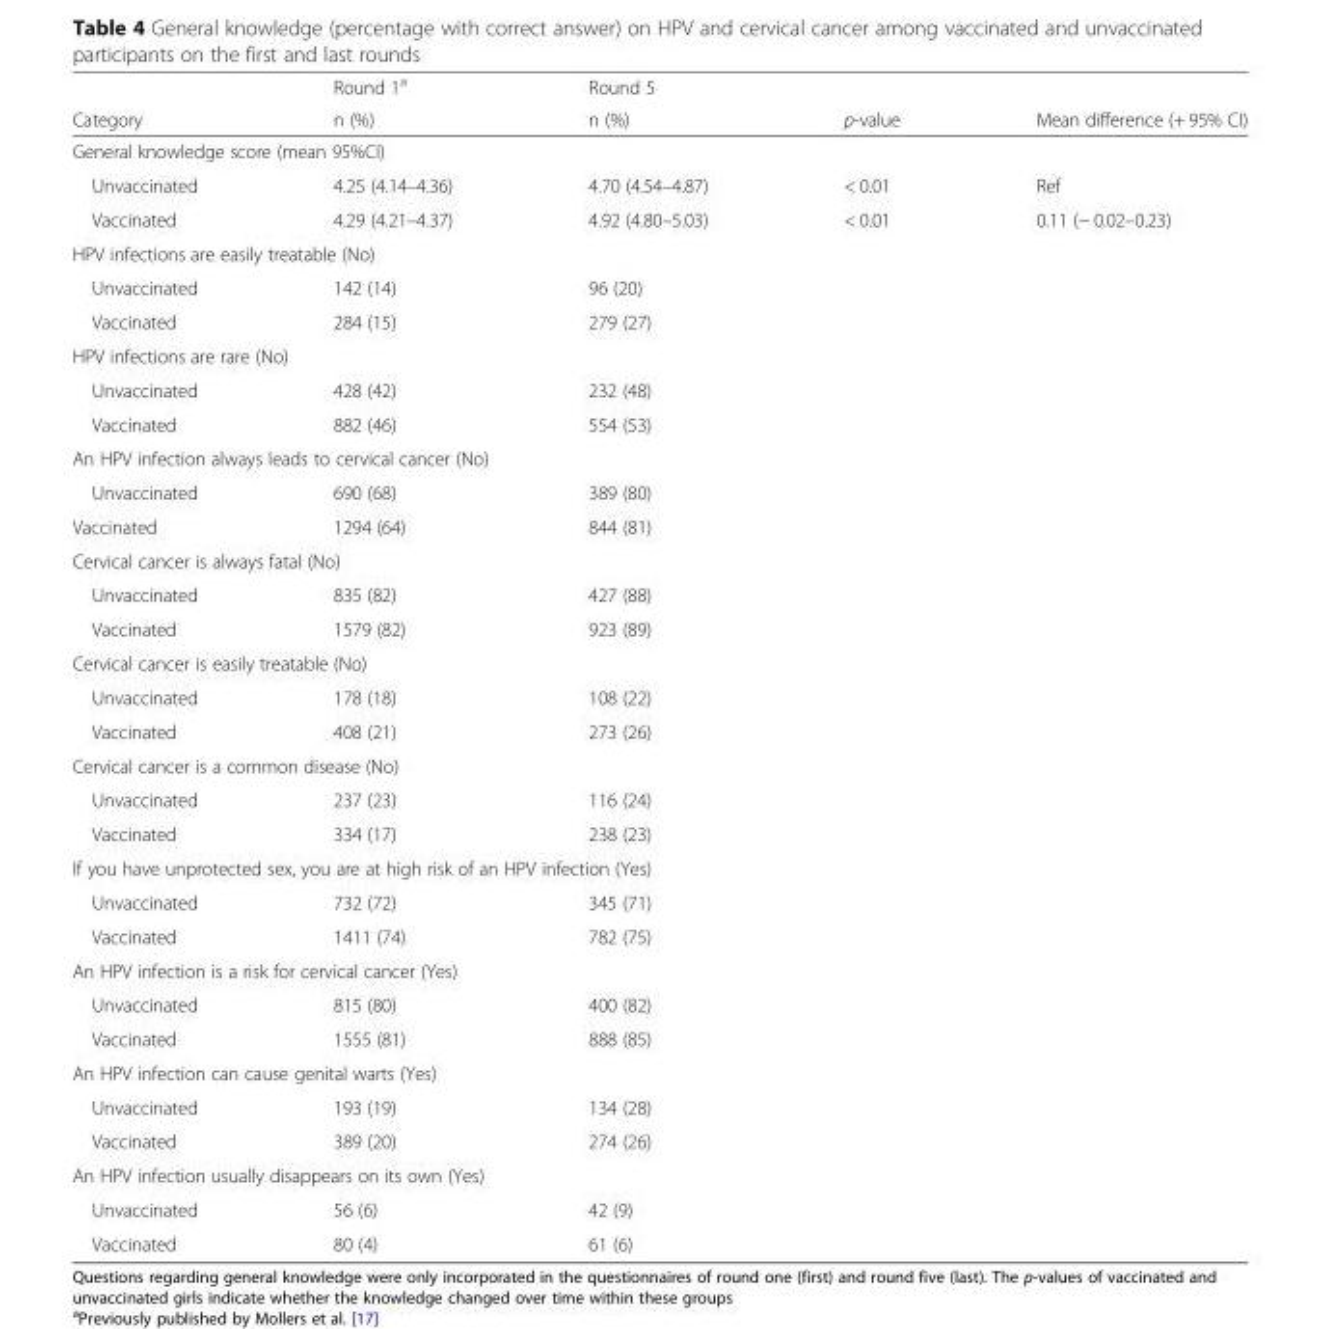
<table><thead><tr><td rowspan="2">Category</td><td rowspan="2">Round 1<sup>a</sup> n (%)</td><td rowspan="2">Round 5 n (%)</td><td rowspan="2">p-value</td><td rowspan="2">Mean difference (+ 95% CI)</td></tr><tr></tr></thead><tbody><tr><td colspan="5">General knowledge score (mean 95%CI)</td></tr><tr><td>Unvaccinated</td><td>4.25 (4.14–4.36)</td><td>4.70 (4.54–4.87)</td><td>&lt; 0.01</td><td>Ref</td></tr><tr><td>Vaccinated</td><td>4.29 (4.21–4.37)</td><td>4.92 (4.80–5.03)</td><td>&lt; 0.01</td><td>0.11 (− 0.02–0.23)</td></tr><tr><td colspan="5">HPV infections are easily treatable (No)</td></tr><tr><td>Unvaccinated</td><td>142 (14)</td><td>96 (20)</td><td></td><td></td></tr><tr><td>Vaccinated</td><td>284 (15)</td><td>279 (27)</td><td></td><td></td></tr><tr><td colspan="5">HPV infections are rare (No)</td></tr><tr><td>Unvaccinated</td><td>428 (42)</td><td>232 (48)</td><td></td><td></td></tr><tr><td>Vaccinated</td><td>882 (46)</td><td>554 (53)</td><td></td><td></td></tr><tr><td colspan="5">An HPV infection always leads to cervical cancer (No)</td></tr><tr><td>Unvaccinated</td><td>690 (68)</td><td>389 (80)</td><td></td><td></td></tr><tr><td>Vaccinated</td><td>1294 (64)</td><td>844 (81)</td><td></td><td></td></tr><tr><td colspan="5">Cervical cancer is always fatal (No)</td></tr><tr><td>Unvaccinated</td><td>835 (82)</td><td>427 (88)</td><td></td><td></td></tr><tr><td>Vaccinated</td><td>1579 (82)</td><td>923 (89)</td><td></td><td></td></tr><tr><td colspan="5">Cervical cancer is easily treatable (No)</td></tr><tr><td>Unvaccinated</td><td>178 (18)</td><td>108 (22)</td><td></td><td></td></tr><tr><td>Vaccinated</td><td>408 (21)</td><td>273 (26)</td><td></td><td></td></tr><tr><td colspan="5">Cervical cancer is a common disease (No)</td></tr><tr><td>Unvaccinated</td><td>237 (23)</td><td>116 (24)</td><td></td><td></td></tr><tr><td>Vaccinated</td><td>334 (17)</td><td>238 (23)</td><td></td><td></td></tr><tr><td colspan="5">If you have unprotected sex, you are at high risk of an HPV infection (Yes)</td></tr><tr><td>Unvaccinated</td><td>732 (72)</td><td>345 (71)</td><td></td><td></td></tr><tr><td>Vaccinated</td><td>1411 (74)</td><td>782 (75)</td><td></td><td></td></tr><tr><td colspan="5">An HPV infection is a risk for cervical cancer (Yes)</td></tr><tr><td>Unvaccinated</td><td>815 (80)</td><td>400 (82)</td><td></td><td></td></tr><tr><td>Vaccinated</td><td>1555 (81)</td><td>888 (85)</td><td></td><td></td></tr><tr><td colspan="5">An HPV infection can cause genital warts (Yes)</td></tr><tr><td>Unvaccinated</td><td>193 (19)</td><td>134 (28)</td><td></td><td></td></tr><tr><td>Vaccinated</td><td>389 (20)</td><td>274 (26)</td><td></td><td></td></tr><tr><td colspan="5">An HPV infection usually disappears on its own (Yes)</td></tr><tr><td>Unvaccinated</td><td>56 (6)</td><td>42 (9)</td><td></td><td></td></tr><tr><td>Vaccinated</td><td>80 (4)</td><td>61 (6)</td><td></td><td></td></tr></tbody></table>